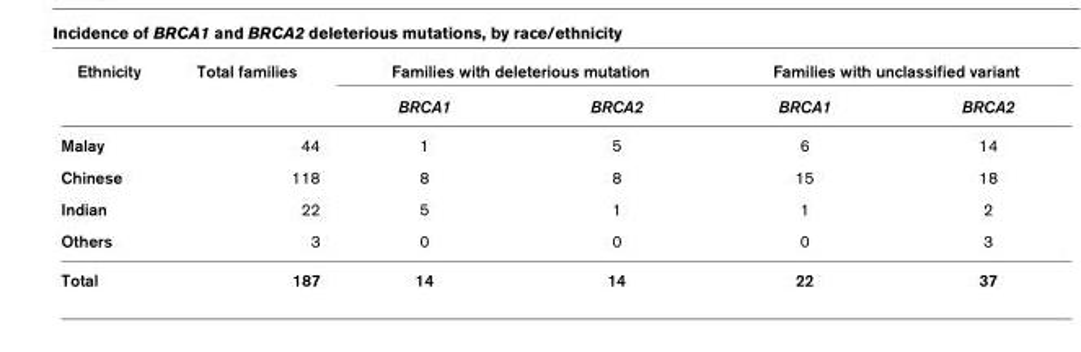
<table><thead><tr><td rowspan="2">Ethnicity</td><td rowspan="2">Total families</td><td colspan="2">Families with deleterious mutation</td><td colspan="2">Families with unclassified variant</td></tr><tr><td>BRCA1</td><td>BRCA2</td><td>BRCA1</td><td>BRCA2</td></tr></thead><tbody><tr><td>Malay</td><td>44</td><td>1</td><td>5</td><td>6</td><td>14</td></tr><tr><td>Chinese</td><td>118</td><td>8</td><td>8</td><td>15</td><td>18</td></tr><tr><td>Indian</td><td>22</td><td>5</td><td>1</td><td>1</td><td>2</td></tr><tr><td>Others</td><td>3</td><td>0</td><td>0</td><td>0</td><td>3</td></tr><tr><td>Total</td><td>187</td><td>14</td><td>14</td><td>22</td><td>37</td></tr></tbody></table>